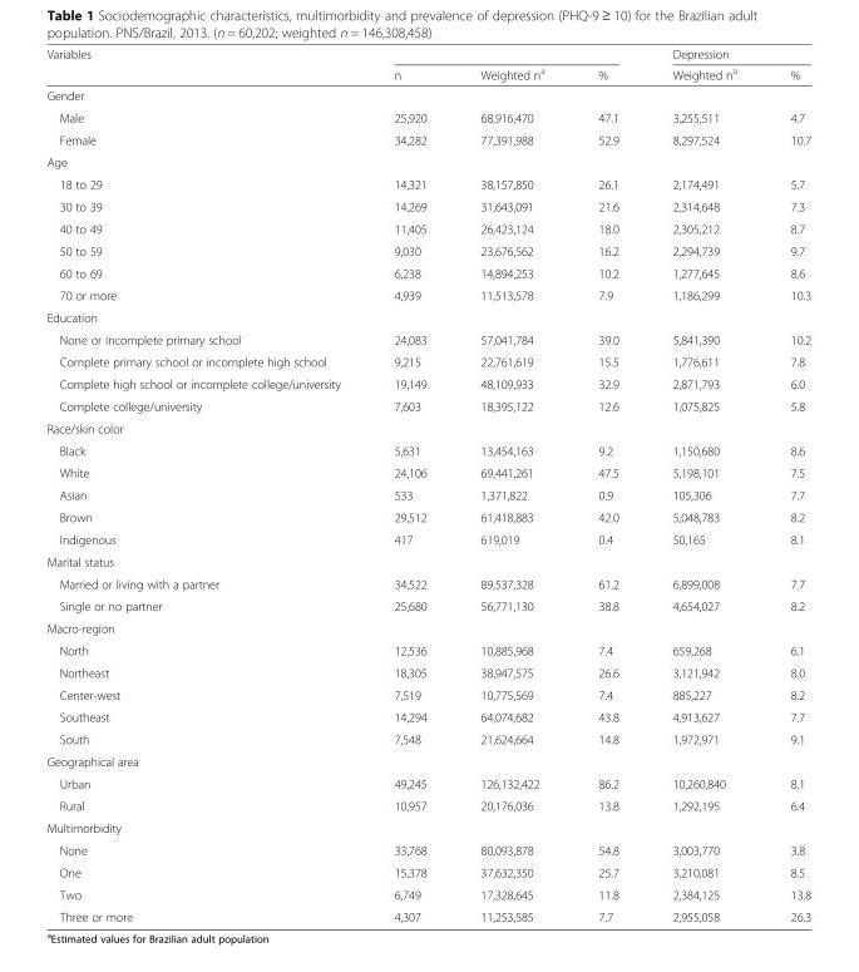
<table><thead><tr><td rowspan="2">Variables</td><td rowspan="2">n</td><td rowspan="2">Weighted n<sup>a</sup></td><td rowspan="2">%</td><td colspan="2">Depression</td></tr><tr><td>Weighted n<sup>a</sup></td><td>%</td></tr></thead><tbody><tr><td colspan="6">Gender</td></tr><tr><td>Male</td><td>25,920</td><td>68,916,470</td><td>47.1</td><td>3,255,511</td><td>4.7</td></tr><tr><td>Female</td><td>34,282</td><td>77,391,988</td><td>52.9</td><td>8,297,524</td><td>10.7</td></tr><tr><td colspan="6">Age</td></tr><tr><td>18 to 29</td><td>14,321</td><td>38,157,850</td><td>26.1</td><td>2,174,491</td><td>5.7</td></tr><tr><td>30 to 39</td><td>14,269</td><td>31,643,091</td><td>21.6</td><td>2,314,648</td><td>7.3</td></tr><tr><td>40 to 49</td><td>11,405</td><td>26,423,124</td><td>18.0</td><td>2,305,212</td><td>8.7</td></tr><tr><td>50 to 59</td><td>9,030</td><td>23,676,562</td><td>16.2</td><td>2,294,739</td><td>9.7</td></tr><tr><td>60 to 69</td><td>6,238</td><td>14,894,253</td><td>10.2</td><td>1,277,645</td><td>8.6</td></tr><tr><td>70 or more</td><td>4,939</td><td>11,513,578</td><td>7.9</td><td>1,186,299</td><td>10.3</td></tr><tr><td colspan="6">Education</td></tr><tr><td>None or incomplete primary school</td><td>24,083</td><td>57,041,784</td><td>39.0</td><td>5,841,390</td><td>10.2</td></tr><tr><td>Complete primary school or incomplete high school</td><td>9,215</td><td>22,761,619</td><td>15.5</td><td>1,776,611</td><td>7.8</td></tr><tr><td>Complete high school or incomplete college/university</td><td>19,149</td><td>48,109,933</td><td>32.9</td><td>2,871,793</td><td>6.0</td></tr><tr><td>Complete college/university</td><td>7,603</td><td>18,395,122</td><td>12.6</td><td>1,075,825</td><td>5.8</td></tr><tr><td colspan="6">Race/skin color</td></tr><tr><td>Black</td><td>5,631</td><td>13,454,163</td><td>9.2</td><td>1,150,680</td><td>8.6</td></tr><tr><td>White</td><td>24,106</td><td>69,441,261</td><td>47.5</td><td>5,198,101</td><td>7.5</td></tr><tr><td>Asian</td><td>533</td><td>1,371,822</td><td>0.9</td><td>105,306</td><td>7.7</td></tr><tr><td>Brown</td><td>29,512</td><td>61,418,883</td><td>42.0</td><td>5,048,783</td><td>8.2</td></tr><tr><td>Indigenous</td><td>417</td><td>619,019</td><td>0.4</td><td>50,165</td><td>8.1</td></tr><tr><td colspan="6">Marital status</td></tr><tr><td>Married or living with a partner</td><td>34,522</td><td>89,537,328</td><td>61.2</td><td>6,899,008</td><td>7.7</td></tr><tr><td>Single or no partner</td><td>25,680</td><td>56,771,130</td><td>38.8</td><td>4,654,027</td><td>8.2</td></tr><tr><td colspan="6">Macro-region</td></tr><tr><td>North</td><td>12,536</td><td>10,885,968</td><td>7.4</td><td>659,268</td><td>6.1</td></tr><tr><td>Northeast</td><td>18,305</td><td>38,947,575</td><td>26.6</td><td>3,121,942</td><td>8.0</td></tr><tr><td>Center-west</td><td>7,519</td><td>10,775,569</td><td>7.4</td><td>885,227</td><td>8.2</td></tr><tr><td>Southeast</td><td>14,294</td><td>64,074,682</td><td>43.8</td><td>4,913,627</td><td>7.7</td></tr><tr><td>South</td><td>7,548</td><td>21,624,664</td><td>14.8</td><td>1,972,971</td><td>9.1</td></tr><tr><td colspan="6">Geographical area</td></tr><tr><td>Urban</td><td>49,245</td><td>126,132,422</td><td>86.2</td><td>10,260,840</td><td>8.1</td></tr><tr><td>Rural</td><td>10,957</td><td>20,176,036</td><td>13.8</td><td>1,292,195</td><td>6.4</td></tr><tr><td colspan="6">Multimorbidity</td></tr><tr><td>None</td><td>33,768</td><td>80,093,878</td><td>54.8</td><td>3,003,770</td><td>3.8</td></tr><tr><td>One</td><td>15,378</td><td>37,632,350</td><td>25.7</td><td>3,210,081</td><td>8.5</td></tr><tr><td>Two</td><td>6,749</td><td>17,328,645</td><td>11.8</td><td>2,384,125</td><td>13.8</td></tr><tr><td>Three or more</td><td>4,307</td><td>11,253,585</td><td>7.7</td><td>2,955,058</td><td>26.3</td></tr></tbody></table>